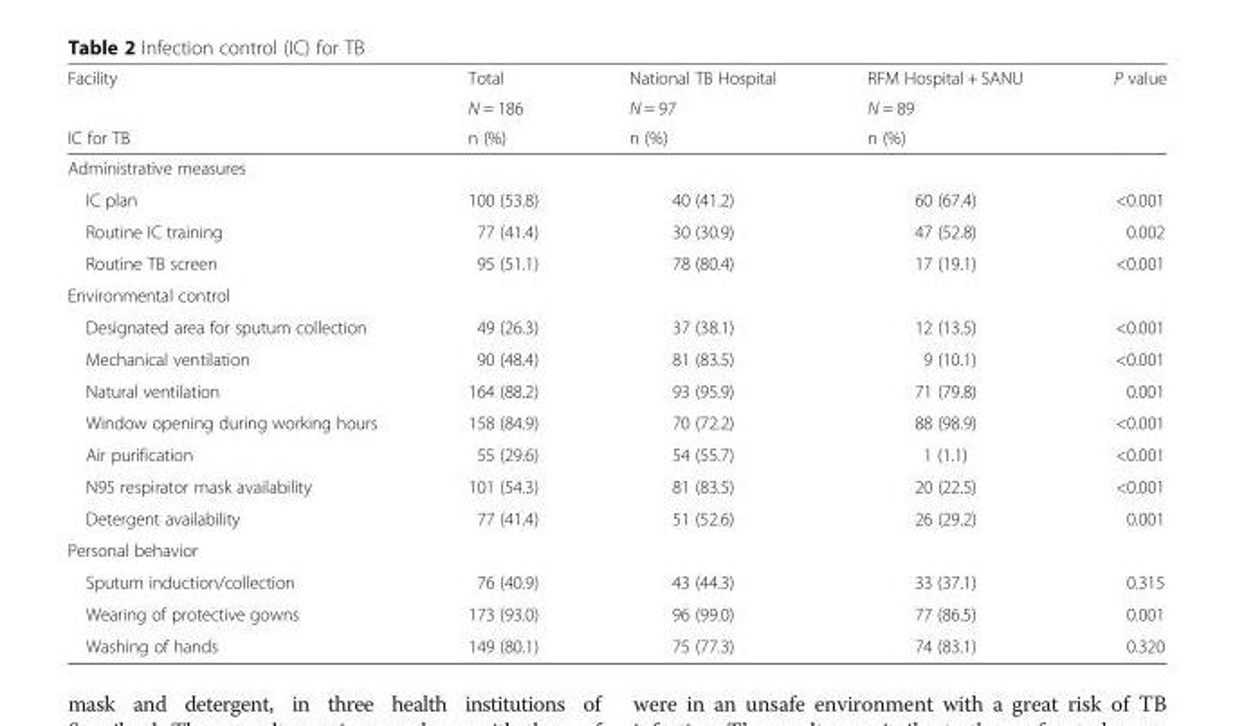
<table><thead><tr><td rowspan="3">Facility IC for TB</td><td rowspan="3">Total N = 186 n (%)</td><td rowspan="3">National TB Hospital N = 97 n (%)</td><td rowspan="3">RFM Hospital + SANU N = 89 n (%)</td><td rowspan="3">P value</td></tr><tr></tr><tr></tr></thead><tbody><tr><td colspan="5">Administrative measures</td></tr><tr><td>IC plan</td><td>100 (53.8)</td><td>40 (41.2)</td><td>60 (67.4)</td><td>&lt;0.001</td></tr><tr><td>Routine IC training</td><td>77 (41.4)</td><td>30 (30.9)</td><td>47 (52.8)</td><td>0.002</td></tr><tr><td>Routine TB screen</td><td>95 (51.1)</td><td>78 (80.4)</td><td>17 (19.1)</td><td>&lt;0.001</td></tr><tr><td colspan="5">Environmental control</td></tr><tr><td>Designated area for sputum collection</td><td>49 (26.3)</td><td>37 (38.1)</td><td>12 (13.5)</td><td>&lt;0.001</td></tr><tr><td>Mechanical ventilation</td><td>90 (48.4)</td><td>81 (83.5)</td><td>9 (10.1)</td><td>&lt;0.001</td></tr><tr><td>Natural ventilation</td><td>164 (88.2)</td><td>93 (95.9)</td><td>71 (79.8)</td><td>0.001</td></tr><tr><td>Window opening during working hours</td><td>158 (84.9)</td><td>70 (72.2)</td><td>88 (98.9)</td><td>&lt;0.001</td></tr><tr><td>Air purification</td><td>55 (29.6)</td><td>54 (55.7)</td><td>1 (1.1)</td><td>&lt;0.001</td></tr><tr><td>N95 respirator mask availability</td><td>101 (54.3)</td><td>81 (83.5)</td><td>20 (22.5)</td><td>&lt;0.001</td></tr><tr><td>Detergent availability</td><td>77 (41.4)</td><td>51 (52.6)</td><td>26 (29.2)</td><td>0.001</td></tr><tr><td colspan="5">Personal behavior</td></tr><tr><td>Sputum induction/collection</td><td>76 (40.9)</td><td>43 (44.3)</td><td>33 (37.1)</td><td>0.315</td></tr><tr><td>Wearing of protective gowns</td><td>173 (93.0)</td><td>96 (99.0)</td><td>77 (86.5)</td><td>0.001</td></tr><tr><td>Washing of hands</td><td>149 (80.1)</td><td>75 (77.3)</td><td>74 (83.1)</td><td>0.320</td></tr></tbody></table>